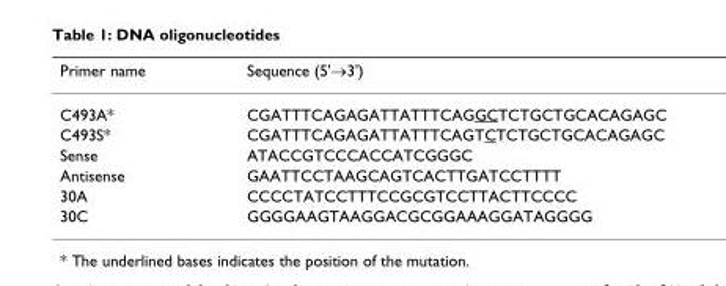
<table><thead><tr><td>Primer name</td><td>Sequence (5&#x27;→3&#x27;)</td></tr></thead><tbody><tr><td>C493A*</td><td>CGATTTCAGAGATTATTTCAGGCTCTGCTGCACAGAGC</td></tr><tr><td>C493S*</td><td>CGATTTCAGAGATTATTTCAGTCTCTGCTGCACAGAGC</td></tr><tr><td>Sense</td><td>ATACCGTCCCACCATCGGGC</td></tr><tr><td>Antisense</td><td>GAATTCCTAAGCAGTCACTTGATCCTTTT</td></tr><tr><td>30A</td><td>CCCCTATCCTTTCCGCGTCCTTACTTCCCC</td></tr><tr><td>30C</td><td>GGGGAAGTAAGGACGCGGAAAGGATAGGGG</td></tr></tbody></table>